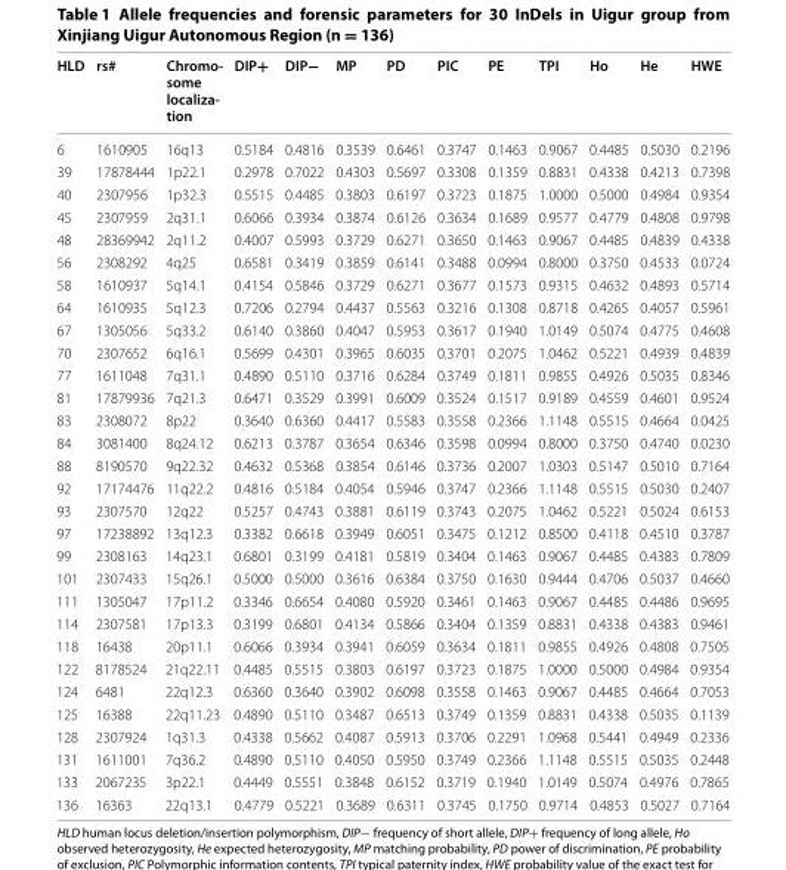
<table><thead><tr><td>HLD</td><td>rs#</td><td>Chromo- some localiza- tion</td><td>DIP+</td><td>DIP−</td><td>MP</td><td>PD</td><td>PIC</td><td>PE</td><td>TPI</td><td>Ho</td><td>He</td><td>HWE</td></tr></thead><tbody><tr><td>6</td><td>1610905</td><td>16q13</td><td>0.5184</td><td>0.4816</td><td>0.3539</td><td>0.6461</td><td>0.3747</td><td>0.1463</td><td>0.9067</td><td>0.4485</td><td>0.5030</td><td>0.2196</td></tr><tr><td>39</td><td>17878444</td><td>1p22.1</td><td>0.2978</td><td>0.7022</td><td>0.4303</td><td>0.5697</td><td>0.3308</td><td>0.1359</td><td>0.8831</td><td>0.4338</td><td>0.4213</td><td>0.7398</td></tr><tr><td>40</td><td>2307956</td><td>1p32.3</td><td>0.5515</td><td>0.4485</td><td>0.3803</td><td>0.6197</td><td>0.3723</td><td>0.1875</td><td>1.0000</td><td>0.5000</td><td>0.4984</td><td>0.9354</td></tr><tr><td>45</td><td>2307959</td><td>2q31.1</td><td>0.6066</td><td>0.3934</td><td>0.3874</td><td>0.6126</td><td>0.3634</td><td>0.1689</td><td>0.9577</td><td>0.4779</td><td>0.4808</td><td>0.9798</td></tr><tr><td>48</td><td>28369942</td><td>2q11.2</td><td>0.4007</td><td>0.5993</td><td>0.3729</td><td>0.6271</td><td>0.3650</td><td>0.1463</td><td>0.9067</td><td>0.4485</td><td>0.4839</td><td>0.4338</td></tr><tr><td>56</td><td>2308292</td><td>4q25</td><td>0.6581</td><td>0.3419</td><td>0.3859</td><td>0.6141</td><td>0.3488</td><td>0.0994</td><td>0.8000</td><td>0.3750</td><td>0.4533</td><td>0.0724</td></tr><tr><td>58</td><td>1610937</td><td>5q14.1</td><td>0.4154</td><td>0.5846</td><td>0.3729</td><td>0.6271</td><td>0.3677</td><td>0.1573</td><td>0.9315</td><td>0.4632</td><td>0.4893</td><td>0.5714</td></tr><tr><td>64</td><td>1610935</td><td>5q12.3</td><td>0.7206</td><td>0.2794</td><td>0.4437</td><td>0.5563</td><td>0.3216</td><td>0.1308</td><td>0.8718</td><td>0.4265</td><td>0.4057</td><td>0.5961</td></tr><tr><td>67</td><td>1305056</td><td>5q33.2</td><td>0.6140</td><td>0.3860</td><td>0.4047</td><td>0.5953</td><td>0.3617</td><td>0.1940</td><td>1.0149</td><td>0.5074</td><td>0.4775</td><td>0.4608</td></tr><tr><td>70</td><td>2307652</td><td>6q16.1</td><td>0.5699</td><td>0.4301</td><td>0.3965</td><td>0.6035</td><td>0.3701</td><td>0.2075</td><td>1.0462</td><td>0.5221</td><td>0.4939</td><td>0.4839</td></tr><tr><td>77</td><td>1611048</td><td>7q31.1</td><td>0.4890</td><td>0.5110</td><td>0.3716</td><td>0.6284</td><td>0.3749</td><td>0.1811</td><td>0.9855</td><td>0.4926</td><td>0.5035</td><td>0.8346</td></tr><tr><td>81</td><td>17879936</td><td>7q21.3</td><td>0.6471</td><td>0.3529</td><td>0.3991</td><td>0.6009</td><td>0.3524</td><td>0.1517</td><td>0.9189</td><td>0.4559</td><td>0.4601</td><td>0.9524</td></tr><tr><td>83</td><td>2308072</td><td>8p22</td><td>0.3640</td><td>0.6360</td><td>0.4417</td><td>0.5583</td><td>0.3558</td><td>0.2366</td><td>1.1148</td><td>0.5515</td><td>0.4664</td><td>0.0425</td></tr><tr><td>84</td><td>3081400</td><td>8q24.12</td><td>0.6213</td><td>0.3787</td><td>0.3654</td><td>0.6346</td><td>0.3598</td><td>0.0994</td><td>0.8000</td><td>0.3750</td><td>0.4740</td><td>0.0230</td></tr><tr><td>88</td><td>8190570</td><td>9q22.32</td><td>0.4632</td><td>0.5368</td><td>0.3854</td><td>0.6146</td><td>0.3736</td><td>0.2007</td><td>1.0303</td><td>0.5147</td><td>0.5010</td><td>0.7164</td></tr><tr><td>92</td><td>17174476</td><td>11q22.2</td><td>0.4816</td><td>0.5184</td><td>0.4054</td><td>0.5946</td><td>0.3747</td><td>0.2366</td><td>1.1148</td><td>0.5515</td><td>0.5030</td><td>0.2407</td></tr><tr><td>93</td><td>2307570</td><td>12q22</td><td>0.5257</td><td>0.4743</td><td>0.3881</td><td>0.6119</td><td>0.3743</td><td>0.2075</td><td>1.0462</td><td>0.5221</td><td>0.5024</td><td>0.6153</td></tr><tr><td>97</td><td>17238892</td><td>13q12.3</td><td>0.3382</td><td>0.6618</td><td>0.3949</td><td>0.6051</td><td>0.3475</td><td>0.1212</td><td>0.8500</td><td>0.4118</td><td>0.4510</td><td>0.3787</td></tr><tr><td>99</td><td>2308163</td><td>14q23.1</td><td>0.6801</td><td>0.3199</td><td>0.4181</td><td>0.5819</td><td>0.3404</td><td>0.1463</td><td>0.9067</td><td>0.4485</td><td>0.4383</td><td>0.7809</td></tr><tr><td>101</td><td>2307433</td><td>15q26.1</td><td>0.5000</td><td>0.5000</td><td>0.3616</td><td>0.6384</td><td>0.3750</td><td>0.1630</td><td>0.9444</td><td>0.4706</td><td>0.5037</td><td>0.4660</td></tr><tr><td>111</td><td>1305047</td><td>17p11.2</td><td>0.3346</td><td>0.6654</td><td>0.4080</td><td>0.5920</td><td>0.3461</td><td>0.1463</td><td>0.9067</td><td>0.4485</td><td>0.4486</td><td>0.9695</td></tr><tr><td>114</td><td>2307581</td><td>17p13.3</td><td>0.3199</td><td>0.6801</td><td>0.4134</td><td>0.5866</td><td>0.3404</td><td>0.1359</td><td>0.8831</td><td>0.4338</td><td>0.4383</td><td>0.9461</td></tr><tr><td>118</td><td>16438</td><td>20p11.1</td><td>0.6066</td><td>0.3934</td><td>0.3941</td><td>0.6059</td><td>0.3634</td><td>0.1811</td><td>0.9855</td><td>0.4926</td><td>0.4808</td><td>0.7505</td></tr><tr><td>122</td><td>8178524</td><td>21q22.11</td><td>0.4485</td><td>0.5515</td><td>0.3803</td><td>0.6197</td><td>0.3723</td><td>0.1875</td><td>1.0000</td><td>0.5000</td><td>0.4984</td><td>0.9354</td></tr><tr><td>124</td><td>6481</td><td>22q12.3</td><td>0.6360</td><td>0.3640</td><td>0.3902</td><td>0.6098</td><td>0.3558</td><td>0.1463</td><td>0.9067</td><td>0.4485</td><td>0.4664</td><td>0.7053</td></tr><tr><td>125</td><td>16388</td><td>22q11.23</td><td>0.4890</td><td>0.5110</td><td>0.3487</td><td>0.6513</td><td>0.3749</td><td>0.1359</td><td>0.8831</td><td>0.4338</td><td>0.5035</td><td>0.1139</td></tr><tr><td>128</td><td>2307924</td><td>1q31.3</td><td>0.4338</td><td>0.5662</td><td>0.4087</td><td>0.5913</td><td>0.3706</td><td>0.2291</td><td>1.0968</td><td>0.5441</td><td>0.4949</td><td>0.2336</td></tr><tr><td>131</td><td>1611001</td><td>7q36.2</td><td>0.4890</td><td>0.5110</td><td>0.4050</td><td>0.5950</td><td>0.3749</td><td>0.2366</td><td>1.1148</td><td>0.5515</td><td>0.5035</td><td>0.2448</td></tr><tr><td>133</td><td>2067235</td><td>3p22.1</td><td>0.4449</td><td>0.5551</td><td>0.3848</td><td>0.6152</td><td>0.3719</td><td>0.1940</td><td>1.0149</td><td>0.5074</td><td>0.4976</td><td>0.7865</td></tr><tr><td>136</td><td>16363</td><td>22q13.1</td><td>0.4779</td><td>0.5221</td><td>0.3689</td><td>0.6311</td><td>0.3745</td><td>0.1750</td><td>0.9714</td><td>0.4853</td><td>0.5027</td><td>0.7164</td></tr></tbody></table>